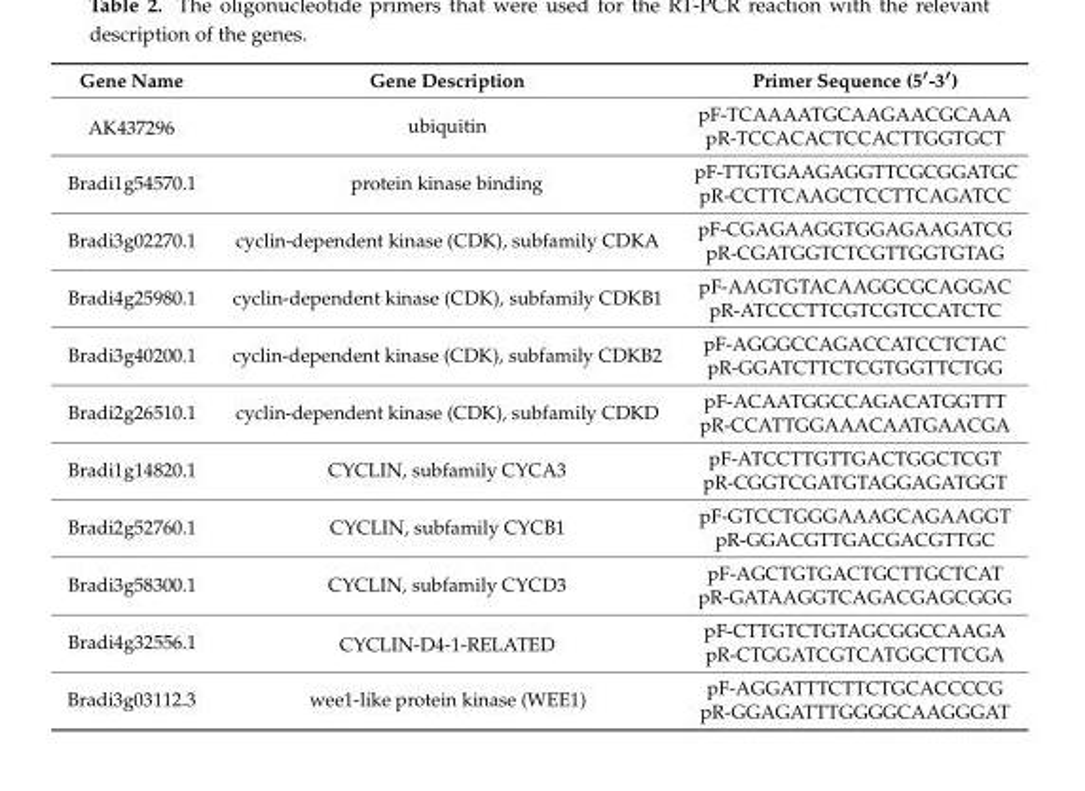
<table><thead><tr><td>Gene Name</td><td>Gene Description</td><td>Primer Sequence (5′-3′)</td></tr></thead><tbody><tr><td rowspan="2">AK437296</td><td rowspan="2">ubiquitin</td><td>pF-TCAAAATGCAAGAACGCAAA</td></tr><tr><td>pR-TCCACACTCCACTTGGTGCT</td></tr><tr><td rowspan="2">Bradi1g54570.1</td><td rowspan="2">protein kinase binding</td><td>pF-TTGTGAAGAGGTTCGCGGATGC</td></tr><tr><td>pR-CCTTCAAGCTCCTTCAGATCC</td></tr><tr><td rowspan="2">Bradi3g02270.1</td><td rowspan="2">cyclin-dependent kinase (CDK), subfamily CDKA</td><td>pF-CGAGAAGGTGGAGAAGATCG</td></tr><tr><td>pR-CGATGGTCTCGTTGGTGTAG</td></tr><tr><td rowspan="2">Bradi4g25980.1</td><td rowspan="2">cyclin-dependent kinase (CDK), subfamily CDKB1</td><td>pF-AAGTGTACAAGGCGCAGGAC</td></tr><tr><td>pR-ATCCCTTCGTCGTCCATCTC</td></tr><tr><td rowspan="2">Bradi3g40200.1</td><td rowspan="2">cyclin-dependent kinase (CDK), subfamily CDKB2</td><td>pF-AGGGCCAGACCATCCTCTAC</td></tr><tr><td>pR-GGATCTTCTCGTGGTTCTGG</td></tr><tr><td rowspan="2">Bradi2g26510.1</td><td rowspan="2">cyclin-dependent kinase (CDK), subfamily CDKD</td><td>pF-ACAATGGCCAGACATGGTTT</td></tr><tr><td>pR-CCATTGGAAACAATGAACGA</td></tr><tr><td rowspan="2">Bradi1g14820.1</td><td rowspan="2">CYCLIN, subfamily CYCA3</td><td>pF-ATCCTTGTTGACTGGCTCGT</td></tr><tr><td>pR-CGGTCGATGTAGGAGATGGT</td></tr><tr><td rowspan="2">Bradi2g52760.1</td><td rowspan="2">CYCLIN, subfamily CYCB1</td><td>pF-GTCCTGGGAAAGCAGAAGGT</td></tr><tr><td>pR-GGACGTTGACGACGTTGC</td></tr><tr><td rowspan="2">Bradi3g58300.1</td><td rowspan="2">CYCLIN, subfamily CYCD3</td><td>pF-AGCTGTGACTGCTTGCTCAT</td></tr><tr><td>pR-GATAAGGTCAGACGAGCGGG</td></tr><tr><td rowspan="2">Bradi4g32556.1</td><td rowspan="2">CYCLIN-D4-1-RELATED</td><td>pF-CTTGTCTGTAGCGGCCAAGA</td></tr><tr><td>pR-CTGGATCGTCATGGCTTCGA</td></tr><tr><td rowspan="2">Bradi3g03112.3</td><td rowspan="2">wee1-like protein kinase (WEE1)</td><td>pF-AGGATTTCTTCTGCACCCCG</td></tr><tr><td>pR-GGAGATTTGGGGCAAGGGAT</td></tr></tbody></table>